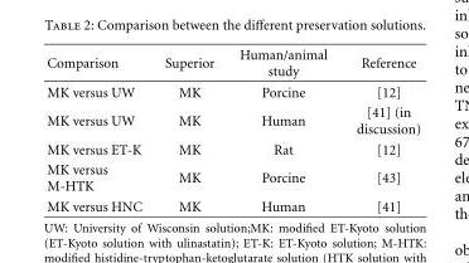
<table><thead><tr><td>Comparison</td><td>Superior</td><td>Human/animal study</td><td>Reference</td></tr></thead><tbody><tr><td>MK versus UW</td><td>MK</td><td>Porcine</td><td>[12]</td></tr><tr><td>MK versus UW</td><td>MK</td><td>Human</td><td>[41] (in discussion)</td></tr><tr><td>MK versus ET-K</td><td>MK</td><td>Rat</td><td>[12]</td></tr><tr><td>MK versus M-HTK</td><td>MK</td><td>Porcine</td><td>[43]</td></tr><tr><td>MK versus HNC</td><td>MK</td><td>Human</td><td>[41]</td></tr></tbody></table>